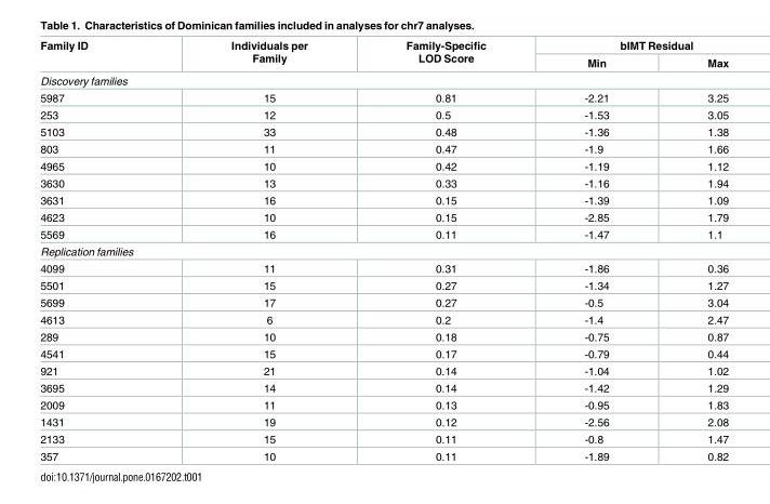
<table><thead><tr><td rowspan="2">Family ID</td><td rowspan="2">Individuals per Family</td><td rowspan="2">Family-Specific LOD Score</td><td colspan="2">bIMT Residual</td></tr><tr><td>Min</td><td>Max</td></tr></thead><tbody><tr><td colspan="5">Discovery families</td></tr><tr><td>5987</td><td>15</td><td>0.81</td><td>-2.21</td><td>3.25</td></tr><tr><td>253</td><td>12</td><td>0.5</td><td>-1.53</td><td>3.05</td></tr><tr><td>5103</td><td>33</td><td>0.48</td><td>-1.36</td><td>1.38</td></tr><tr><td>803</td><td>11</td><td>0.47</td><td>-1.9</td><td>1.66</td></tr><tr><td>4965</td><td>10</td><td>0.42</td><td>-1.19</td><td>1.12</td></tr><tr><td>3630</td><td>13</td><td>0.33</td><td>-1.16</td><td>1.94</td></tr><tr><td>3631</td><td>16</td><td>0.15</td><td>-1.39</td><td>1.09</td></tr><tr><td>4623</td><td>10</td><td>0.15</td><td>-2.85</td><td>1.79</td></tr><tr><td>5569</td><td>16</td><td>0.11</td><td>-1.47</td><td>1.1</td></tr><tr><td colspan="5">Replication families</td></tr><tr><td>4099</td><td>11</td><td>0.31</td><td>-1.86</td><td>0.36</td></tr><tr><td>5501</td><td>15</td><td>0.27</td><td>-1.34</td><td>1.27</td></tr><tr><td>5699</td><td>17</td><td>0.27</td><td>-0.5</td><td>3.04</td></tr><tr><td>4613</td><td>6</td><td>0.2</td><td>-1.4</td><td>2.47</td></tr><tr><td>289</td><td>10</td><td>0.18</td><td>-0.75</td><td>0.87</td></tr><tr><td>4541</td><td>15</td><td>0.17</td><td>-0.79</td><td>0.44</td></tr><tr><td>921</td><td>21</td><td>0.14</td><td>-1.04</td><td>1.02</td></tr><tr><td>3695</td><td>14</td><td>0.14</td><td>-1.42</td><td>1.29</td></tr><tr><td>2009</td><td>11</td><td>0.13</td><td>-0.95</td><td>1.83</td></tr><tr><td>1431</td><td>19</td><td>0.12</td><td>-2.56</td><td>2.08</td></tr><tr><td>2133</td><td>15</td><td>0.11</td><td>-0.8</td><td>1.47</td></tr><tr><td>357</td><td>10</td><td>0.11</td><td>-1.89</td><td>0.82</td></tr></tbody></table>